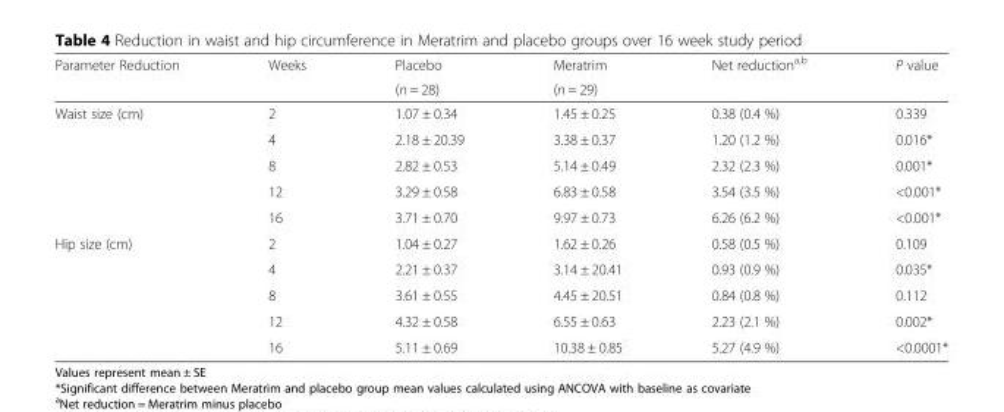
<table><thead><tr><td rowspan="2">Parameter Reduction</td><td rowspan="2">Weeks</td><td rowspan="2">Placebo (n = 28)</td><td rowspan="2">Meratrim (n = 29)</td><td rowspan="2">Net reduction<sup>a,b</sup></td><td rowspan="2">P value</td></tr><tr></tr></thead><tbody><tr><td rowspan="5">Waist size (cm)</td><td>2</td><td>1.07 ± 0.34</td><td>1.45 ± 0.25</td><td>0.38 (0.4 %)</td><td>0.339</td></tr><tr><td>4</td><td>2.18 ± 20.39</td><td>3.38 ± 0.37</td><td>1.20 (1.2 %)</td><td>0.016*</td></tr><tr><td>8</td><td>2.82 ± 0.53</td><td>5.14 ± 0.49</td><td>2.32 (2.3 %)</td><td>0.001*</td></tr><tr><td>12</td><td>3.29 ± 0.58</td><td>6.83 ± 0.58</td><td>3.54 (3.5 %)</td><td>&lt;0.001*</td></tr><tr><td>16</td><td>3.71 ± 0.70</td><td>9.97 ± 0.73</td><td>6.26 (6.2 %)</td><td>&lt;0.001*</td></tr><tr><td rowspan="5">Hip size (cm)</td><td>2</td><td>1.04 ± 0.27</td><td>1.62 ± 0.26</td><td>0.58 (0.5 %)</td><td>0.109</td></tr><tr><td>4</td><td>2.21 ± 0.37</td><td>3.14 ± 20.41</td><td>0.93 (0.9 %)</td><td>0.035*</td></tr><tr><td>8</td><td>3.61 ± 0.55</td><td>4.45 ± 20.51</td><td>0.84 (0.8 %)</td><td>0.112</td></tr><tr><td>12</td><td>4.32 ± 0.58</td><td>6.55 ± 0.63</td><td>2.23 (2.1 %)</td><td>0.002*</td></tr><tr><td>16</td><td>5.11 ± 0.69</td><td>10.38 ± 0.85</td><td>5.27 (4.9 %)</td><td>&lt;0.0001*</td></tr></tbody></table>